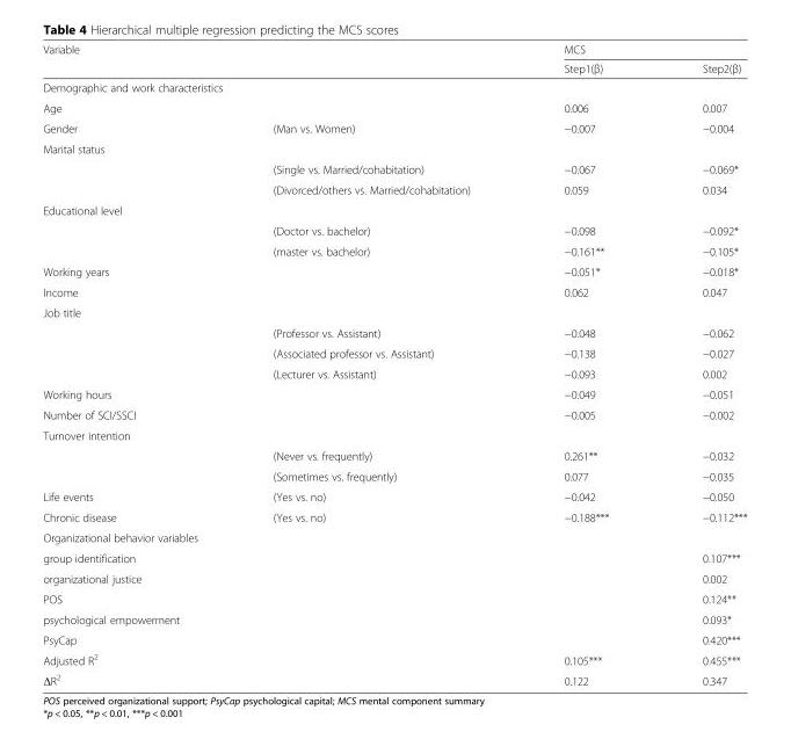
<table><thead><tr><td rowspan="2">Variable</td><td rowspan="2"></td><td colspan="2">MCS</td></tr><tr><td>Step1(β)</td><td>Step2(β)</td></tr></thead><tbody><tr><td colspan="4">Demographic and work characteristics</td></tr><tr><td>Age</td><td></td><td>0.006</td><td>0.007</td></tr><tr><td>Gender</td><td>(Man vs. Women)</td><td>−0.007</td><td>−0.004</td></tr><tr><td colspan="4">Marital status</td></tr><tr><td></td><td>(Single vs. Married/cohabitation)</td><td>−0.067</td><td>−0.069*</td></tr><tr><td></td><td>(Divorced/others vs. Married/cohabitation)</td><td>0.059</td><td>0.034</td></tr><tr><td colspan="4">Educational level</td></tr><tr><td></td><td>(Doctor vs. bachelor)</td><td>−0.098</td><td>−0.092*</td></tr><tr><td></td><td>(master vs. bachelor)</td><td>−0.161**</td><td>−0.105*</td></tr><tr><td>Working years</td><td></td><td>−0.051*</td><td>−0.018*</td></tr><tr><td>Income</td><td></td><td>0.062</td><td>0.047</td></tr><tr><td colspan="4">Job title</td></tr><tr><td></td><td>(Professor vs. Assistant)</td><td>−0.048</td><td>−0.062</td></tr><tr><td></td><td>(Associated professor vs. Assistant)</td><td>−0.138</td><td>−0.027</td></tr><tr><td></td><td>(Lecturer vs. Assistant)</td><td>−0.093</td><td>0.002</td></tr><tr><td>Working hours</td><td></td><td>−0.049</td><td>−0.051</td></tr><tr><td>Number of SCI/SSCI</td><td></td><td>−0.005</td><td>−0.002</td></tr><tr><td colspan="4">Turnover intention</td></tr><tr><td></td><td>(Never vs. frequently)</td><td>0.261**</td><td>−0.032</td></tr><tr><td></td><td>(Sometimes vs. frequently)</td><td>0.077</td><td>−0.035</td></tr><tr><td>Life events</td><td>(Yes vs. no)</td><td>−0.042</td><td>−0.050</td></tr><tr><td>Chronic disease</td><td>(Yes vs. no)</td><td>−0.188***</td><td>−0.112***</td></tr><tr><td colspan="4">Organizational behavior variables</td></tr><tr><td>group identification</td><td></td><td></td><td>0.107***</td></tr><tr><td>organizational justice</td><td></td><td></td><td>0.002</td></tr><tr><td>POS</td><td></td><td></td><td>0.124**</td></tr><tr><td>psychological empowerment</td><td></td><td></td><td>0.093*</td></tr><tr><td>PsyCap</td><td></td><td></td><td>0.420***</td></tr><tr><td>Adjusted R<sup>2</sup></td><td></td><td>0.105***</td><td>0.455***</td></tr><tr><td>ΔR<sup>2</sup></td><td></td><td>0.122</td><td>0.347</td></tr></tbody></table>